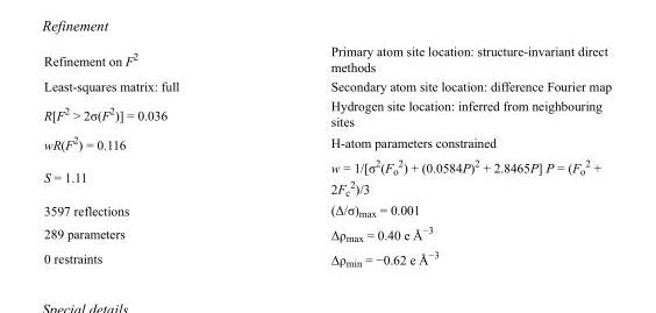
<table><tbody><tr><td>Refinement on F<sup>2</sup></td><td>Primary atom site location: structure-invariant direct methods</td></tr><tr><td>Least-squares matrix: full</td><td>Secondary atom site location: difference Fourier map</td></tr><tr><td>R[F<sup>2</sup> &gt; 2σ(F<sup>2</sup>)] = 0.036</td><td>Hydrogen site location: inferred from neighbouring sites</td></tr><tr><td>wR(F<sup>2</sup>) = 0.116</td><td>H-atom parameters constrained</td></tr><tr><td>S = 1.11</td><td>w = 1/[σ<sup>2</sup>(F<sub>o</sub> <sup>2</sup>) + (0.0584P)<sup>2</sup> + 2.8465P] P = (F<sub>o</sub> <sup>2</sup> + 2F<sub>c</sub> <sup>2</sup>)/3</td></tr><tr><td>3597 reflections</td><td>(Δ/σ)<sub>max</sub> = 0.001</td></tr><tr><td>289 parameters</td><td>Δρ<sub>max</sub> = 0.40 e Å<sup>−3</sup></td></tr><tr><td>0 restraints</td><td>Δρ<sub>min</sub> = −0.62 e Å<sup>−3</sup></td></tr></tbody></table>